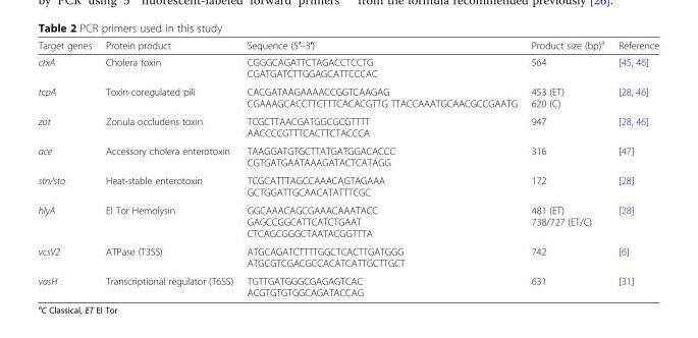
<table><thead><tr><td>Target genes</td><td>Protein product</td><td>Sequence (5′–3′)</td><td>Product size (bp)<sup>a</sup></td><td>Reference</td></tr></thead><tbody><tr><td>ctxA</td><td>Cholera toxin</td><td>CGGGCAGATTCTAGACCTCCTG CGATGATCTTGGAGCATTCCCAC</td><td>564</td><td>[45, 46]</td></tr><tr><td>tcpA</td><td>Toxin-coregulated pili</td><td>CACGATAAGAAAACCGGTCAAGAG CGAAAGCACCTTCTTTCACACGTTG TTACCAAATGCAACGCCGAATG</td><td>453 (ET) 620 (C)</td><td>[28, 46]</td></tr><tr><td>zot</td><td>Zonula occludens toxin</td><td>TCGCTTAACGATGGCGCGTTTT AACCCCGTTTCACTTCTACCCA</td><td>947</td><td>[28, 46]</td></tr><tr><td>ace</td><td>Accessory cholera enterotoxin</td><td>TAAGGATGTGCTTATGATGGACACCC CGTGATGAATAAAGATACTCATAGG</td><td>316</td><td>[47]</td></tr><tr><td>stn/sto</td><td>Heat-stable enterotoxin</td><td>TCGCATTTAGCCAAACAGTAGAAA GCTGGATTGCAACATATTTCGC</td><td>172</td><td>[28]</td></tr><tr><td>hlyA</td><td>El Tor Hemolysin</td><td>GGCAAACAGCGAAACAAATACC GAGCCGGCATTCATCTGAAT CTCAGCGGGCTAATACGGTTTA</td><td>481 (ET) 738/727 (ET/C)</td><td>[28]</td></tr><tr><td>vcsV2</td><td>ATPase (T3SS)</td><td>ATGCAGATCTTTTGGCTCACTTGATGGG ATGCGTCGACGCCACATCATTGCTTGCT</td><td>742</td><td>[6]</td></tr><tr><td>vasH</td><td>Transcriptional regulator (T6SS)</td><td>TGTTGATGGGCGAGAGTCAC ACGTGTGTGGCAGATACCAG</td><td>631</td><td>[31]</td></tr></tbody></table>